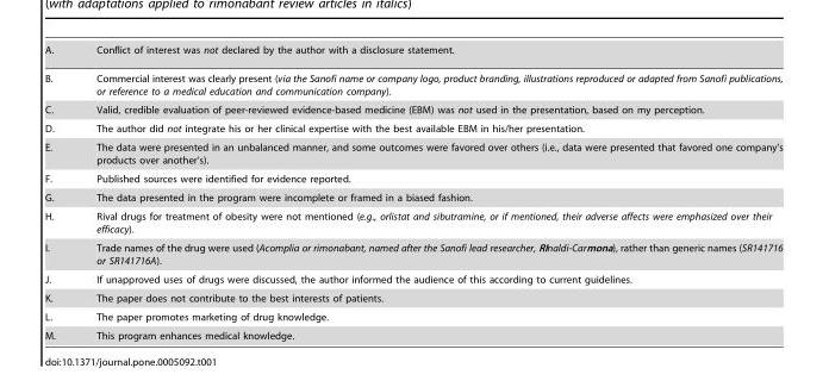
<table><tbody><tr><td>A.</td><td>Conflict of interest was not declared by the author with a disclosure statement.</td></tr><tr><td>B.</td><td>Commercial interest was clearly present (via the Sanofi name or company logo, product branding, illustrations reproduced or adapted from Sanofi publications, or reference to a medical education and communication company).</td></tr><tr><td>C.</td><td>Valid, credible evaluation of peer-reviewed evidence-based medicine (EBM) was not used in the presentation, based on my perception.</td></tr><tr><td>D.</td><td>The author did not integrate his or her clinical expertise with the best available EBM in his/her presentation.</td></tr><tr><td>E.</td><td>The data were presented in an unbalanced manner, and some outcomes were favored over others (i.e., data were presented that favored one company’s products over another’s).</td></tr><tr><td>F.</td><td>Published sources were identified for evidence reported.</td></tr><tr><td>G.</td><td>The data presented in the program were incomplete or framed in a biased fashion.</td></tr><tr><td>H.</td><td>Rival drugs for treatment of obesity were not mentioned (e.g., orlistat and sibutramine, or if mentioned, their adverse affects were emphasized over their efficacy).</td></tr><tr><td>I.</td><td>Trade names of the drug were used (Acomplia or rimonabant, named after the Sanofi lead researcher, RInaldi-Carmona), rather than generic names (SR141716 or SR141716A).</td></tr><tr><td>J.</td><td>If unapproved uses of drugs were discussed, the author informed the audience of this according to current guidelines.</td></tr><tr><td>K.</td><td>The paper does not contribute to the best interests of patients.</td></tr><tr><td>L.</td><td>The paper promotes marketing of drug knowledge.</td></tr><tr><td>M.</td><td>This program enhances medical knowledge.</td></tr></tbody></table>